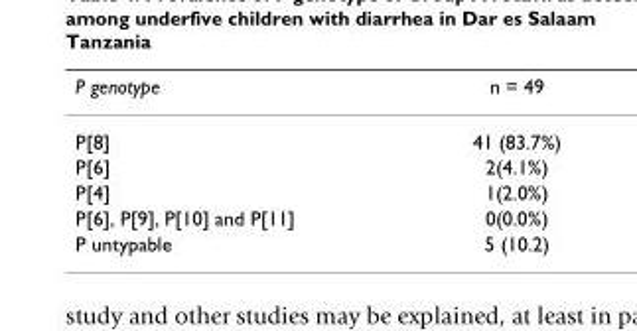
<table><thead><tr><td>P genotype</td><td>n = 49</td></tr></thead><tbody><tr><td>P[8]</td><td>41 (83.7%)</td></tr><tr><td>P[6]</td><td>2(4.1%)</td></tr><tr><td>P[4]</td><td>1(2.0%)</td></tr><tr><td>P[6], P[9], P[10] and P[11]</td><td>0(0.0%)</td></tr><tr><td>P untypable</td><td>5 (10.2)</td></tr></tbody></table>